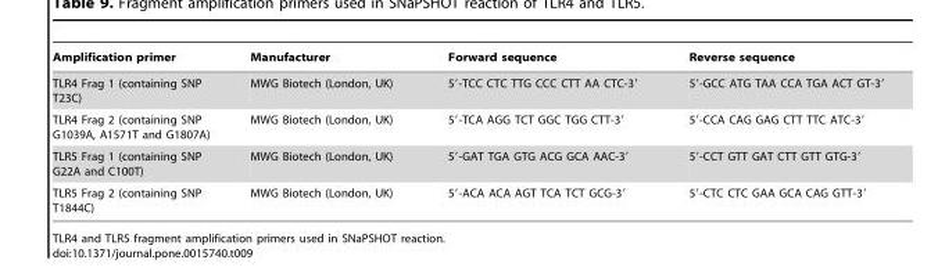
<table><thead><tr><td>Amplification primer</td><td>Manufacturer</td><td>Forward sequence</td><td>Reverse sequence</td></tr></thead><tbody><tr><td>TLR4 Frag 1 (containing SNP T23C)</td><td>MWG Biotech (London, UK)</td><td>5′-TCC CTC TTG CCC CTT AA CTC-3′</td><td>5′-GCC ATG TAA CCA TGA ACT GT-3′</td></tr><tr><td>TLR4 Frag 2 (containing SNP G1039A, A1571T and G1807A)</td><td>MWG Biotech (London, UK)</td><td>5′-TCA AGG TCT GGC TGG CTT-3′</td><td>5′-CCA CAG GAG CTT TTC ATC-3′</td></tr><tr><td>TLR5 Frag 1 (containing SNP G22A and C100T)</td><td>MWG Biotech (London, UK)</td><td>5′-GAT TGA GTG ACG GCA AAC-3′</td><td>5′-CCT GTT GAT CTT GTT GTG-3′</td></tr><tr><td>TLR5 Frag 2 (containing SNP T1844C)</td><td>MWG Biotech (London, UK)</td><td>5′-ACA ACA AGT TCA TCT GCG-3′</td><td>5′-CTC CTC GAA GCA CAG GTT-3′</td></tr></tbody></table>